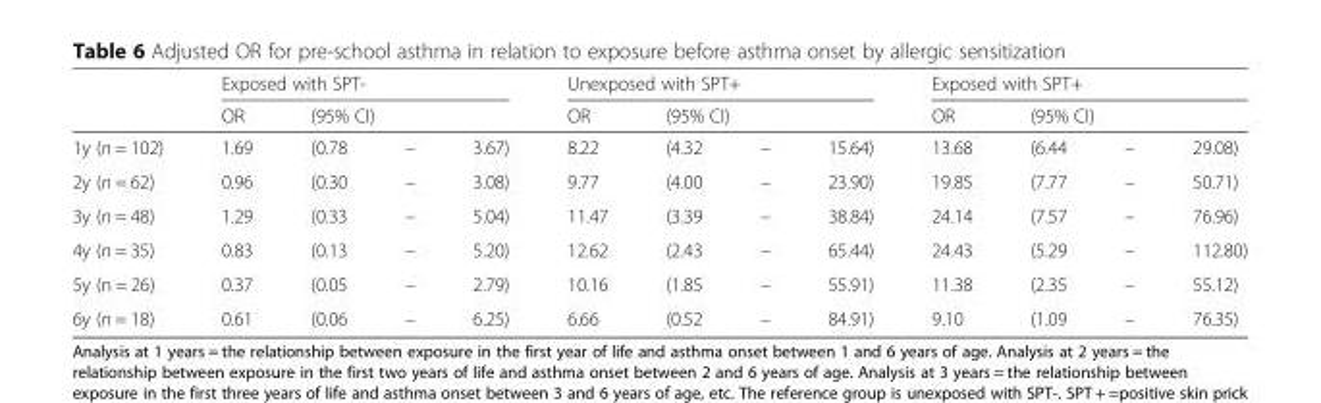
<table><thead><tr><td rowspan="3">1y (n = 102)</td><td colspan="4">Exposed with SPT-</td><td colspan="4">Unexposed with SPT+</td><td colspan="4">Exposed with SPT+</td></tr><tr><td rowspan="2">OR 1.69</td><td colspan="3">(95% CI)</td><td rowspan="2">OR 8.22</td><td colspan="3">(95% CI)</td><td rowspan="2">OR 13.68</td><td colspan="3">(95% CI)</td></tr><tr><td>(0.78</td><td>–</td><td>3.67)</td><td>(4.32</td><td>–</td><td>15.64)</td><td>(6.44</td><td>–</td><td>29.08)</td></tr></thead><tbody><tr><td>2y (n = 62)</td><td>0.96</td><td>(0.30</td><td>–</td><td>3.08)</td><td>9.77</td><td>(4.00</td><td>–</td><td>23.90)</td><td>19.85</td><td>(7.77</td><td>–</td><td>50.71)</td></tr><tr><td>3y (n = 48)</td><td>1.29</td><td>(0.33</td><td>–</td><td>5.04)</td><td>11.47</td><td>(3.39</td><td>–</td><td>38.84)</td><td>24.14</td><td>(7.57</td><td>–</td><td>76.96)</td></tr><tr><td>4y (n = 35)</td><td>0.83</td><td>(0.13</td><td>–</td><td>5.20)</td><td>12.62</td><td>(2.43</td><td>–</td><td>65.44)</td><td>24.43</td><td>(5.29</td><td>–</td><td>112.80)</td></tr><tr><td>5y (n = 26)</td><td>0.37</td><td>(0.05</td><td>–</td><td>2.79)</td><td>10.16</td><td>(1.85</td><td>–</td><td>55.91)</td><td>11.38</td><td>(2.35</td><td>–</td><td>55.12)</td></tr><tr><td>6y (n = 18)</td><td>0.61</td><td>(0.06</td><td>–</td><td>6.25)</td><td>6.66</td><td>(0.52</td><td>–</td><td>84.91)</td><td>9.10</td><td>(1.09</td><td>–</td><td>76.35)</td></tr></tbody></table>